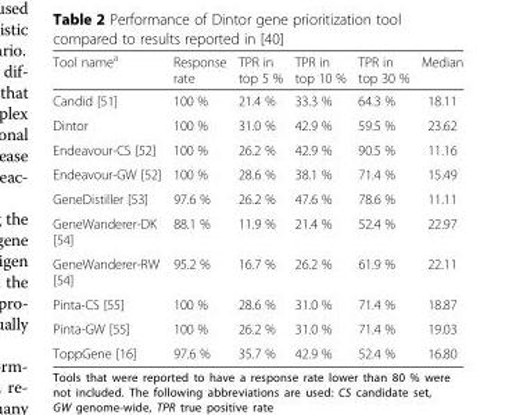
<table><thead><tr><td>Tool name<sup>a</sup></td><td>Response rate</td><td>TPR in top 5 %</td><td>TPR in top 10 %</td><td>TPR in top 30 %</td><td>Median</td></tr></thead><tbody><tr><td>Candid [51]</td><td>100 %</td><td>21.4 %</td><td>33.3 %</td><td>64.3 %</td><td>18.11</td></tr><tr><td>Dintor</td><td>100 %</td><td>31.0 %</td><td>42.9 %</td><td>59.5 %</td><td>23.62</td></tr><tr><td>Endeavour-CS [52]</td><td>100 %</td><td>26.2 %</td><td>42.9 %</td><td>90.5 %</td><td>11.16</td></tr><tr><td>Endeavour-GW [52]</td><td>100 %</td><td>28.6 %</td><td>38.1 %</td><td>71.4 %</td><td>15.49</td></tr><tr><td>GeneDistiller [53]</td><td>97.6 %</td><td>26.2 %</td><td>47.6 %</td><td>78.6 %</td><td>11.11</td></tr><tr><td>GeneWanderer-DK [54]</td><td>88.1 %</td><td>11.9 %</td><td>21.4 %</td><td>52.4 %</td><td>22.97</td></tr><tr><td>GeneWanderer-RW [54]</td><td>95.2 %</td><td>16.7 %</td><td>26.2 %</td><td>61.9 %</td><td>22.11</td></tr><tr><td>Pinta-CS [55]</td><td>100 %</td><td>28.6 %</td><td>31.0 %</td><td>71.4 %</td><td>18.87</td></tr><tr><td>Pinta-GW [55]</td><td>100 %</td><td>26.2 %</td><td>31.0 %</td><td>71.4 %</td><td>19.03</td></tr><tr><td>ToppGene [16]</td><td>97.6 %</td><td>35.7 %</td><td>42.9 %</td><td>52.4 %</td><td>16.80</td></tr></tbody></table>